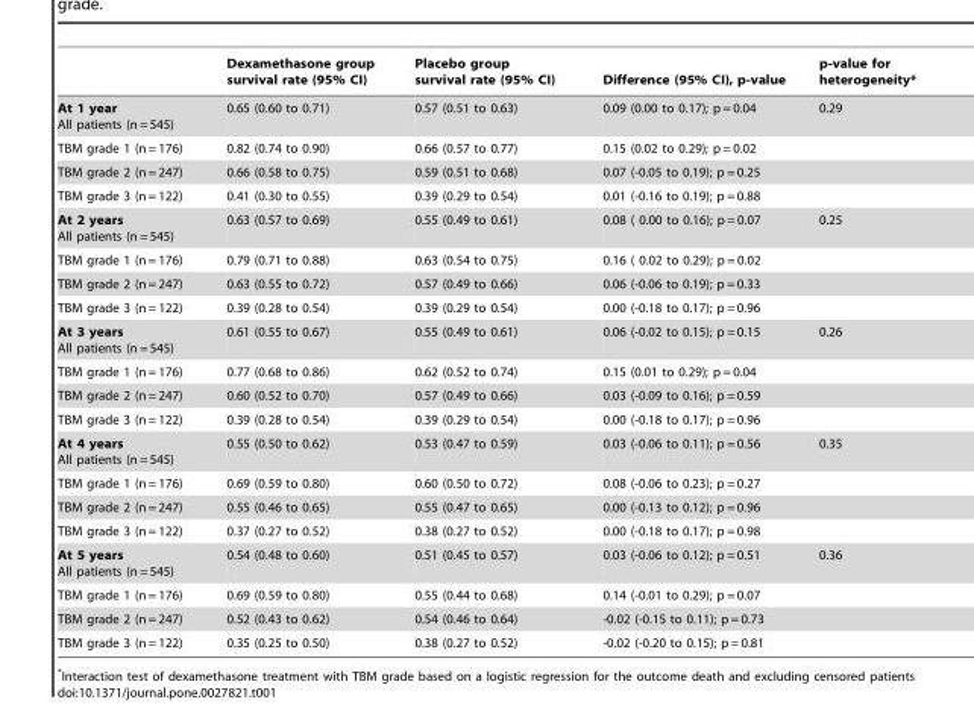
<table><thead><tr><td></td><td>Dexamethasone group survival rate (95% CI)</td><td>Placebo group survival rate (95% CI)</td><td>Difference (95% CI), p-value</td><td>p-value for heterogeneity*</td></tr></thead><tbody><tr><td>At 1 year All patients (n = 545)</td><td>0.65 (0.60 to 0.71)</td><td>0.57 (0.51 to 0.63)</td><td>0.09 (0.00 to 0.17); p = 0.04</td><td>0.29</td></tr><tr><td>TBM grade 1 (n = 176)</td><td>0.82 (0.74 to 0.90)</td><td>0.66 (0.57 to 0.77)</td><td>0.15 (0.02 to 0.29); p = 0.02</td><td></td></tr><tr><td>TBM grade 2 (n = 247)</td><td>0.66 (0.58 to 0.75)</td><td>0.59 (0.51 to 0.68)</td><td>0.07 (-0.05 to 0.19); p = 0.25</td><td></td></tr><tr><td>TBM grade 3 (n = 122)</td><td>0.41 (0.30 to 0.55)</td><td>0.39 (0.29 to 0.54)</td><td>0.01 (-0.16 to 0.19); p = 0.88</td><td></td></tr><tr><td>At 2 years All patients (n = 545)</td><td>0.63 (0.57 to 0.69)</td><td>0.55 (0.49 to 0.61)</td><td>0.08 ( 0.00 to 0.16); p = 0.07</td><td>0.25</td></tr><tr><td>TBM grade 1 (n = 176)</td><td>0.79 (0.71 to 0.88)</td><td>0.63 (0.54 to 0.75)</td><td>0.16 ( 0.02 to 0.29); p = 0.02</td><td></td></tr><tr><td>TBM grade 2 (n = 247)</td><td>0.63 (0.55 to 0.72)</td><td>0.57 (0.49 to 0.66)</td><td>0.06 (-0.06 to 0.19); p = 0.33</td><td></td></tr><tr><td>TBM grade 3 (n = 122)</td><td>0.39 (0.28 to 0.54)</td><td>0.39 (0.29 to 0.54)</td><td>0.00 (-0.18 to 0.17); p = 0.96</td><td></td></tr><tr><td>At 3 years All patients (n = 545)</td><td>0.61 (0.55 to 0.67)</td><td>0.55 (0.49 to 0.61)</td><td>0.06 (-0.02 to 0.15); p = 0.15</td><td>0.26</td></tr><tr><td>TBM grade 1 (n = 176)</td><td>0.77 (0.68 to 0.86)</td><td>0.62 (0.52 to 0.74)</td><td>0.15 (0.01 to 0.29); p = 0.04</td><td></td></tr><tr><td>TBM grade 2 (n = 247)</td><td>0.60 (0.52 to 0.70)</td><td>0.57 (0.49 to 0.66)</td><td>0.03 (-0.09 to 0.16); p = 0.59</td><td></td></tr><tr><td>TBM grade 3 (n = 122)</td><td>0.39 (0.28 to 0.54)</td><td>0.39 (0.29 to 0.54)</td><td>0.00 (-0.18 to 0.17); p = 0.96</td><td></td></tr><tr><td>At 4 years All patients (n = 545)</td><td>0.55 (0.50 to 0.62)</td><td>0.53 (0.47 to 0.59)</td><td>0.03 (-0.06 to 0.11); p = 0.56</td><td>0.35</td></tr><tr><td>TBM grade 1 (n = 176)</td><td>0.69 (0.59 to 0.80)</td><td>0.60 (0.50 to 0.72)</td><td>0.08 (-0.06 to 0.23); p = 0.27</td><td></td></tr><tr><td>TBM grade 2 (n = 247)</td><td>0.55 (0.46 to 0.65)</td><td>0.55 (0.47 to 0.65)</td><td>0.00 (-0.13 to 0.12); p = 0.96</td><td></td></tr><tr><td>TBM grade 3 (n = 122)</td><td>0.37 (0.27 to 0.52)</td><td>0.38 (0.27 to 0.52)</td><td>0.00 (-0.18 to 0.17); p = 0.98</td><td></td></tr><tr><td>At 5 years All patients (n = 545)</td><td>0.54 (0.48 to 0.60)</td><td>0.51 (0.45 to 0.57)</td><td>0.03 (-0.06 to 0.12); p = 0.51</td><td>0.36</td></tr><tr><td>TBM grade 1 (n = 176)</td><td>0.69 (0.59 to 0.80)</td><td>0.55 (0.44 to 0.68)</td><td>0.14 (-0.01 to 0.29); p = 0.07</td><td></td></tr><tr><td>TBM grade 2 (n = 247)</td><td>0.52 (0.43 to 0.62)</td><td>0.54 (0.46 to 0.64)</td><td>-0.02 (-0.15 to 0.11); p = 0.73</td><td></td></tr><tr><td>TBM grade 3 (n = 122)</td><td>0.35 (0.25 to 0.50)</td><td>0.38 (0.27 to 0.52)</td><td>-0.02 (-0.20 to 0.15); p = 0.81</td><td></td></tr></tbody></table>